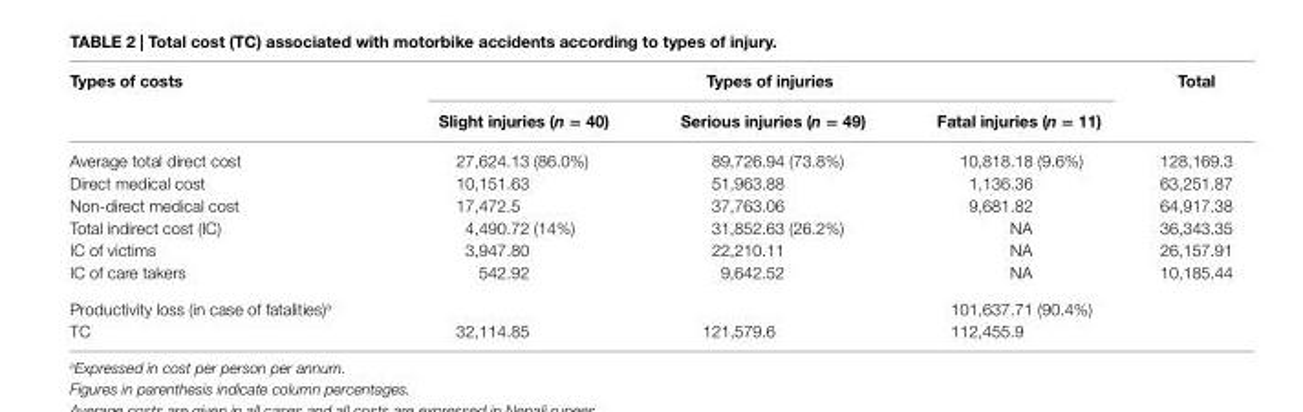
<table><thead><tr><td rowspan="2">Types of costs</td><td colspan="3">Types of injuries</td><td rowspan="2">Total</td></tr><tr><td>slight injuries (n = 40)</td><td>serious injuries (n = 49)</td><td>Fatal injuries (n = 11)</td></tr></thead><tbody><tr><td>Average total direct cost</td><td>27,624.13 (86.0%)</td><td>89,726.94 (73.8%)</td><td>10,818.18 (9.6%)</td><td>128,169.3</td></tr><tr><td>Direct medical cost</td><td>10,151.63</td><td>51,963.88</td><td>1,136.36</td><td>63,251.87</td></tr><tr><td>Non-direct medical cost</td><td>17,472.5</td><td>37,763.06</td><td>9,681.82</td><td>64,917.38</td></tr><tr><td>Total indirect cost (IC)</td><td>4,490.72 (14%)</td><td>31,852.63 (26.2%)</td><td>NA</td><td>36,343.35</td></tr><tr><td>IC of victims</td><td>3,947.80</td><td>22,210.11</td><td>NA</td><td>26,157.91</td></tr><tr><td>IC of care takers</td><td>542.92</td><td>9,642.52</td><td>NA</td><td>10,185.44</td></tr><tr><td colspan="3">Productivity loss (in case of fatalities)<sup>a</sup></td><td>101,637.71 (90.4%)</td><td></td></tr><tr><td>TC</td><td>32,114.85</td><td>121,579.6</td><td>112,455.9</td><td></td></tr></tbody></table>